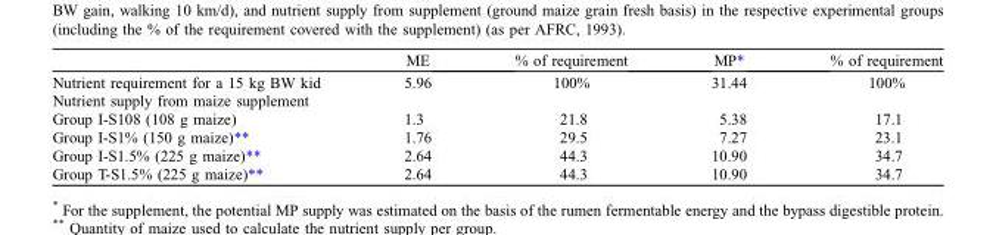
<table><thead><tr><td></td><td>ME</td><td>% of requirement</td><td>MP*</td><td>% of requirement</td></tr></thead><tbody><tr><td>Nutrient requirement for a 15 kg BW kid</td><td>5.96</td><td>100%</td><td>31.44</td><td>100%</td></tr><tr><td colspan="5">Nutrient supply from maize supplement</td></tr><tr><td>Group I-S108 (108 g maize)</td><td>1.3</td><td>21.8</td><td>5.38</td><td>17.1</td></tr><tr><td>Group I-S1% (150 g maize)**</td><td>1.76</td><td>29.5</td><td>7.27</td><td>23.1</td></tr><tr><td>Group I-S1.5% (225 g maize)**</td><td>2.64</td><td>44.3</td><td>10.90</td><td>34.7</td></tr><tr><td>Group T-S1.5% (225 g maize)**</td><td>2.64</td><td>44.3</td><td>10.90</td><td>34.7</td></tr></tbody></table>